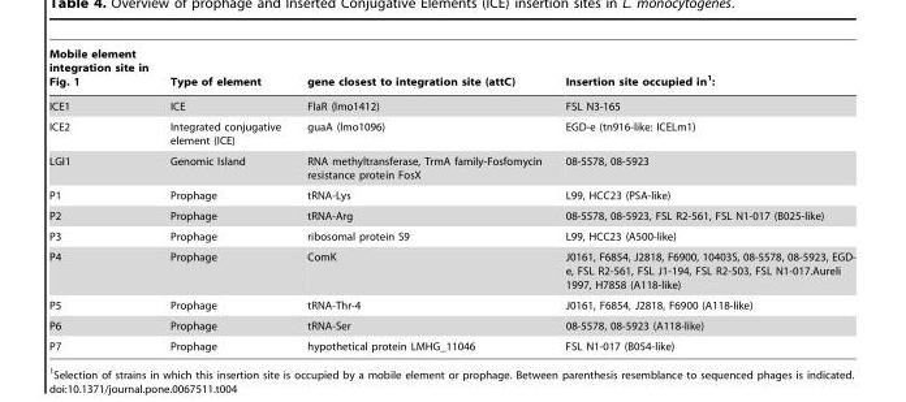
<table><thead><tr><td>Mobile element integration site in Fig. 1</td><td>Type of element</td><td>gene closest to integration site (attC)</td><td>Insertion site occupied in<sup>1</sup>:</td></tr></thead><tbody><tr><td>ICE1</td><td>ICE</td><td>FlaR (lmo1412)</td><td>FSL N3-165</td></tr><tr><td>ICE2</td><td>Integrated conjugative element (ICE)</td><td>guaA (lmo1096)</td><td>EGD-e (tn916-like: ICELm1)</td></tr><tr><td>LGI1</td><td>Genomic Island</td><td>RNA methyltransferase, TrmA family-Fosfomycin resistance protein FosX</td><td>08-5578, 08-5923</td></tr><tr><td>P1</td><td>Prophage</td><td>tRNA-Lys</td><td>L99, HCC23 (PSA-like)</td></tr><tr><td>P2</td><td>Prophage</td><td>tRNA-Arg</td><td>08-5578, 08-5923, FSL R2-561, FSL N1-017 (B025-like)</td></tr><tr><td>P3</td><td>Prophage</td><td>ribosomal protein S9</td><td>L99, HCC23 (A500-like)</td></tr><tr><td>P4</td><td>Prophage</td><td>ComK</td><td>J0161, F6854, J2818, F6900, 10403S, 08-5578, 08-5923, EGD- e, FSL R2-561, FSL J1-194, FSL R2-503, FSL N1-017.Aureli 1997, H7858 (A118-like)</td></tr><tr><td>P5</td><td>Prophage</td><td>tRNA-Thr-4</td><td>J0161, F6854, J2818, F6900 (A118-like)</td></tr><tr><td>P6</td><td>Prophage</td><td>tRNA-Ser</td><td>08-5578, 08-5923 (A118-like)</td></tr><tr><td>P7</td><td>Prophage</td><td>hypothetical protein LMHG_11046</td><td>FSL N1-017 (B054-like)</td></tr></tbody></table>